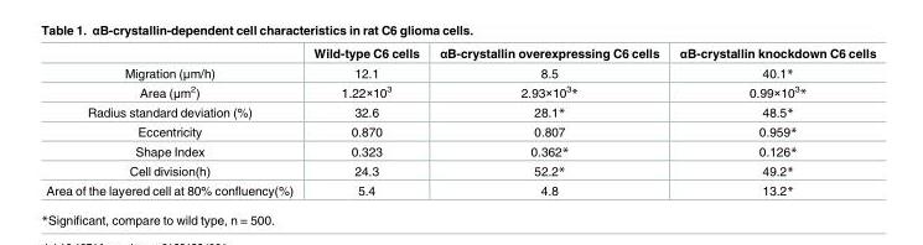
<table><thead><tr><td></td><td>Wild-type C6 cells</td><td>αB-crystallin overexpressing C6 cells</td><td>αB-crystallin knockdown C6 cells</td></tr></thead><tbody><tr><td>Migration (μm/h)</td><td>12.1</td><td>8.5</td><td>40.1*</td></tr><tr><td>Area (μm<sup>2</sup>)</td><td>1.22×10<sup>3</sup></td><td>2.93×10<sup>3</sup>*</td><td>0.99×10<sup>3</sup>*</td></tr><tr><td>Radius standard deviation (%)</td><td>32.6</td><td>28.1*</td><td>48.5*</td></tr><tr><td>Eccentricity</td><td>0.870</td><td>0.807</td><td>0.959*</td></tr><tr><td>Shape Index</td><td>0.323</td><td>0.362*</td><td>0.126*</td></tr><tr><td>Cell division(h)</td><td>24.3</td><td>52.2*</td><td>49.2*</td></tr><tr><td>Area of the layered cell at 80% confluency(%)</td><td>5.4</td><td>4.8</td><td>13.2*</td></tr></tbody></table>